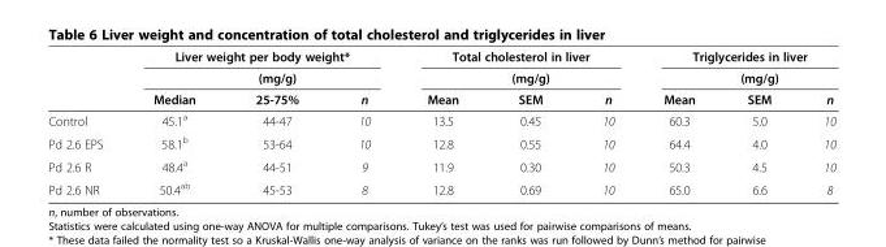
<table><thead><tr><td rowspan="3"></td><td colspan="3">Liver weight per body weight*</td><td colspan="3">Total cholesterol in liver</td><td colspan="3">Triglycerides in liver</td></tr><tr><td rowspan="2">Median</td><td rowspan="2">(mg/g) 25-75%</td><td rowspan="2">n</td><td rowspan="2">Mean</td><td rowspan="2">(mg/g) SEM</td><td rowspan="2">n</td><td rowspan="2">Mean</td><td rowspan="2">(mg/g) SEM</td><td rowspan="2">n</td></tr><tr></tr></thead><tbody><tr><td>Control</td><td>45.1<sup>a</sup></td><td>44-47</td><td>10</td><td>13.5</td><td>0.45</td><td>10</td><td>60.3</td><td>5.0</td><td>10</td></tr><tr><td>Pd 2.6 EPS</td><td>58.1<sup>b</sup></td><td>53-64</td><td>10</td><td>12.8</td><td>0.55</td><td>10</td><td>64.4</td><td>4.0</td><td>10</td></tr><tr><td>Pd 2.6 R</td><td>48.4<sup>a</sup></td><td>44-51</td><td>9</td><td>11.9</td><td>0.30</td><td>10</td><td>50.3</td><td>4.5</td><td>10</td></tr><tr><td>Pd 2.6 NR</td><td>50.4<sup>ab</sup></td><td>45-53</td><td>8</td><td>12.8</td><td>0.69</td><td>10</td><td>65.0</td><td>6.6</td><td>8</td></tr></tbody></table>